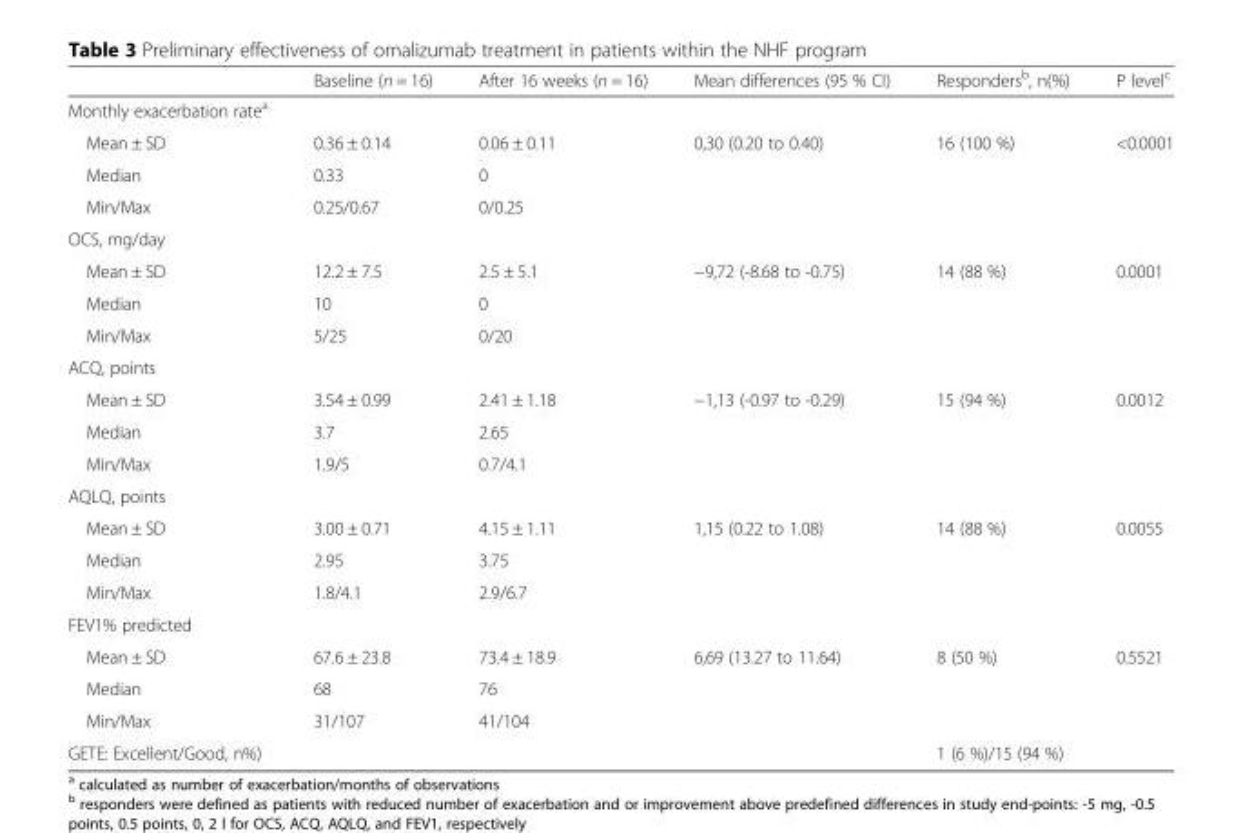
<table><thead><tr><td></td><td>Baseline (n = 16)</td><td>After 16 weeks (n = 16)</td><td>Mean differences (95 % CI)</td><td>Responders<sup>b</sup>, n(%)</td><td>P level<sup>c</sup></td></tr></thead><tbody><tr><td colspan="6">Monthly exacerbation rate<sup>a</sup></td></tr><tr><td>Mean ± SD</td><td>0.36 ± 0.14</td><td>0.06 ± 0.11</td><td rowspan="3">0,30 (0.20 to 0.40)</td><td rowspan="3">16 (100 %)</td><td rowspan="3">&lt;0.0001</td></tr><tr><td>Median</td><td>0.33</td><td>0</td></tr><tr><td>Min/Max</td><td>0.25/0.67</td><td>0/0.25</td></tr><tr><td colspan="6">OCS, mg/day</td></tr><tr><td>Mean ± SD</td><td>12.2 ± 7.5</td><td>2.5 ± 5.1</td><td rowspan="3">−9,72 (-8.68 to -0.75)</td><td rowspan="3">14 (88 %)</td><td rowspan="3">0.0001</td></tr><tr><td>Median</td><td>10</td><td>0</td></tr><tr><td>Min/Max</td><td>5/25</td><td>0/20</td></tr><tr><td colspan="6">ACQ, points</td></tr><tr><td>Mean ± SD</td><td>3.54 ± 0.99</td><td>2.41 ± 1.18</td><td rowspan="3">−1,13 (-0.97 to -0.29)</td><td rowspan="3">15 (94 %)</td><td rowspan="3">0.0012</td></tr><tr><td>Median</td><td>3.7</td><td>2.65</td></tr><tr><td>Min/Max</td><td>1.9/5</td><td>0.7/4.1</td></tr><tr><td colspan="6">AQLQ, points</td></tr><tr><td>Mean ± SD</td><td>3.00 ± 0.71</td><td>4.15 ± 1.11</td><td rowspan="3">1,15 (0.22 to 1.08)</td><td rowspan="3">14 (88 %)</td><td rowspan="3">0.0055</td></tr><tr><td>Median</td><td>2.95</td><td>3.75</td></tr><tr><td>Min/Max</td><td>1.8/4.1</td><td>2.9/6.7</td></tr><tr><td colspan="6">FEV1% predicted</td></tr><tr><td>Mean ± SD</td><td>67.6 ± 23.8</td><td>73.4 ± 18.9</td><td rowspan="3">6,69 (13.27 to 11.64)</td><td rowspan="3">8 (50 %)</td><td rowspan="3">0.5521</td></tr><tr><td>Median</td><td>68</td><td>76</td></tr><tr><td>Min/Max</td><td>31/107</td><td>41/104</td></tr><tr><td>GETE: Excellent/Good, n%)</td><td colspan="2"></td><td></td><td colspan="2">1 (6 %)/15 (94 %)</td></tr></tbody></table>